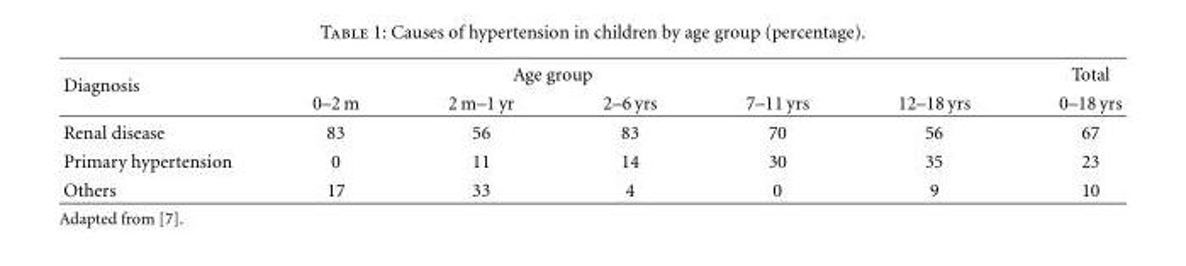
<table><thead><tr><td rowspan="2">Diagnosis</td><td rowspan="2">0–2 m</td><td colspan="2">Age group</td><td rowspan="2">7–11 yrs</td><td rowspan="2">12–18 yrs</td><td rowspan="2">Total 0–18 yrs</td></tr><tr><td>2 m–1 yr</td><td>2–6 yrs</td></tr></thead><tbody><tr><td>Renal disease</td><td>83</td><td>56</td><td>83</td><td>70</td><td>56</td><td>67</td></tr><tr><td>Primary hypertension</td><td>0</td><td>11</td><td>14</td><td>30</td><td>35</td><td>23</td></tr><tr><td>Others</td><td>17</td><td>33</td><td>4</td><td>0</td><td>9</td><td>10</td></tr></tbody></table>